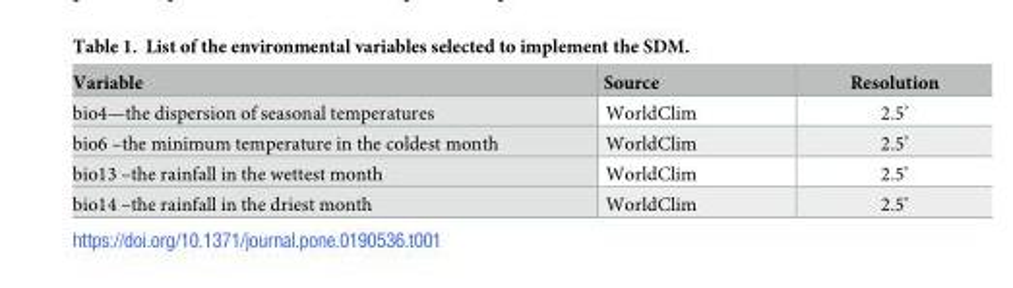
<table><thead><tr><td>Variable</td><td>Source</td><td>Resolution</td></tr></thead><tbody><tr><td>bio4—the dispersion of seasonal temperatures</td><td>WorldClim</td><td>2.5’</td></tr><tr><td>bio6 –the minimum temperature in the coldest month</td><td>WorldClim</td><td>2.5’</td></tr><tr><td>bio13 –the rainfall in the wettest month</td><td>WorldClim</td><td>2.5’</td></tr><tr><td>bio14 –the rainfall in the driest month</td><td>WorldClim</td><td>2.5’</td></tr></tbody></table>